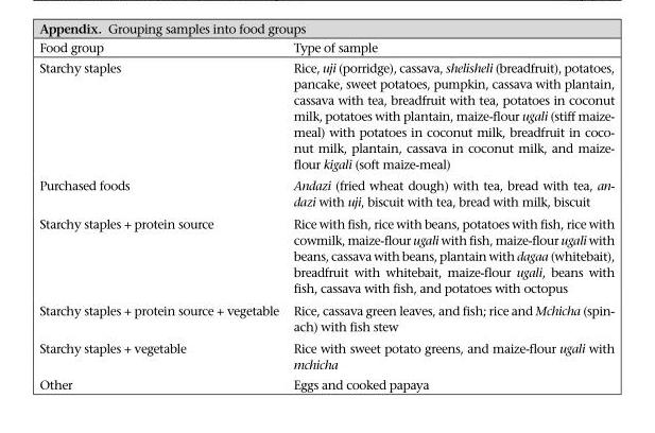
<table><thead><tr><td>Food group</td><td>Type of sample</td></tr></thead><tbody><tr><td>Starchy staples</td><td>Rice, uji (porridge), cassava, shelisheli (breadfruit), potatoes, pancake, sweet potatoes, pumpkin, cassava with plantain, cassava with tea, breadfruit with tea, potatoes in coconut milk, potatoes with plantain, maize-flour ugali (stiff maize- meal) with potatoes in coconut milk, breadfruit in coco- nut milk, plantain, cassava in coconut milk, and maize- flour kigali (soft maize-meal)</td></tr><tr><td>Purchased foods</td><td>Andazi (fried wheat dough) with tea, bread with tea, an- dazi with uji, biscuit with tea, bread with milk, biscuit</td></tr><tr><td>Starchy staples + protein source</td><td>Rice with fish, rice with beans, potatoes with fish, rice with cowmilk, maize-flour ugali with fish, maize-flour ugali with beans, cassava with beans, plantain with dagaa (whitebait), breadfruit with whitebait, maize-flour ugali, beans with fish, cassava with fish, and potatoes with octopus</td></tr><tr><td>Starchy staples + protein source + vegetable</td><td>Rice, cassava green leaves, and fish; rice and Mchicha (spin- ach) with fish stew</td></tr><tr><td>Starchy staples + vegetable</td><td>Rice with sweet potato greens, and maize-flour ugali with mchicha</td></tr><tr><td>Other</td><td>Eggs and cooked papaya</td></tr></tbody></table>